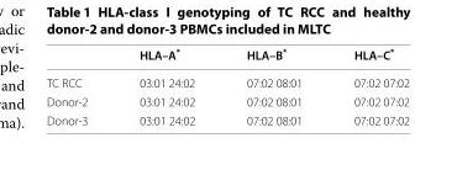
<table><thead><tr><td></td><td>HLA–A*</td><td>HLA–B*</td><td>HLA–C*</td></tr></thead><tbody><tr><td>TC RCC</td><td>03:01 24:02</td><td>07:02 08:01</td><td>07:02 07:02</td></tr><tr><td>Donor-2</td><td>03:01 24:02</td><td>07:02 08:01</td><td>07:02 07:02</td></tr><tr><td>Donor-3</td><td>03:01 24:02</td><td>07:02 08:01</td><td>07:02 07:02</td></tr></tbody></table>